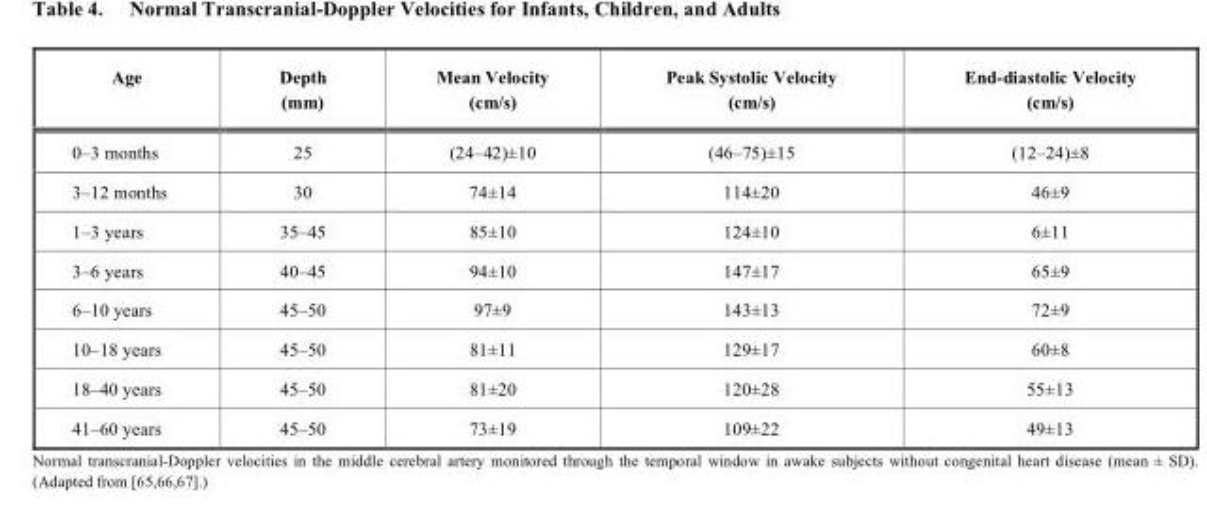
<table><thead><tr><td>Age</td><td>Depth (mm)</td><td>Mean Velocity (cm/s)</td><td>Peak Systolic Velocity (cm/s)</td><td>End-diastolic Velocity (cm/s)</td></tr></thead><tbody><tr><td>0–3 months</td><td>25</td><td>(24–42)±10</td><td>(46–75)±15</td><td>(12–24)±8</td></tr><tr><td>3–12 months</td><td>30</td><td>74±14</td><td>114±20</td><td>46±9</td></tr><tr><td>1–3 years</td><td>35–45</td><td>85±10</td><td>124±10</td><td>6±11</td></tr><tr><td>3–6 years</td><td>40–45</td><td>94±10</td><td>147±17</td><td>65±9</td></tr><tr><td>6–10 years</td><td>45–50</td><td>97±9</td><td>143±13</td><td>72±9</td></tr><tr><td>10–18 years</td><td>45–50</td><td>81±11</td><td>129±17</td><td>60±8</td></tr><tr><td>18–40 years</td><td>45–50</td><td>81±20</td><td>120±28</td><td>55±13</td></tr><tr><td>41–60 years</td><td>45–50</td><td>73±19</td><td>109±22</td><td>49±13</td></tr></tbody></table>